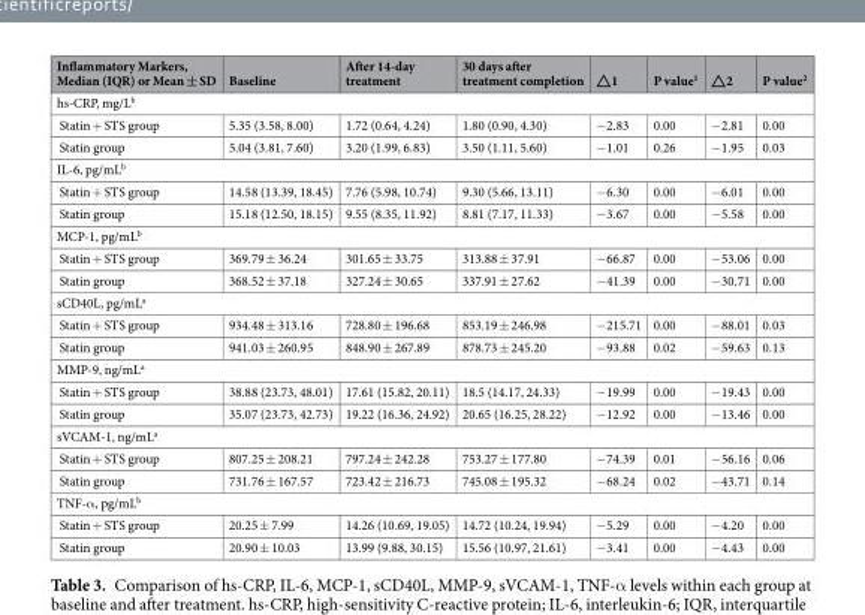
<table><thead><tr><td>Inflammatory Markers, Median (IQR) or Mean ± SD</td><td>Baseline</td><td>After 14-day treatment</td><td>30 days after treatment completion</td><td>△1</td><td>P value<sup>1</sup></td><td>△2</td><td>P value<sup>2</sup></td></tr></thead><tbody><tr><td colspan="8">hs-CRP, mg/L<sup>b</sup></td></tr><tr><td>Statin + STS group</td><td>5.35 (3.58, 8.00)</td><td>1.72 (0.64, 4.24)</td><td>1.80 (0.90, 4.30)</td><td>−2.83</td><td>0.00</td><td>−2.81</td><td>0.00</td></tr><tr><td>Statin group</td><td>5.04 (3.81, 7.60)</td><td>3.20 (1.99, 6.83)</td><td>3.50 (1.11, 5.60)</td><td>−1.01</td><td>0.26</td><td>−1.95</td><td>0.03</td></tr><tr><td colspan="8">IL-6, pg/mL<sup>b</sup></td></tr><tr><td>Statin + STS group</td><td>14.58 (13.39, 18.45)</td><td>7.76 (5.98, 10.74)</td><td>9.30 (5.66, 13.11)</td><td>−6.30</td><td>0.00</td><td>−6.01</td><td>0.00</td></tr><tr><td>Statin group</td><td>15.18 (12.50, 18.15)</td><td>9.55 (8.35, 11.92)</td><td>8.81 (7.17, 11.33)</td><td>−3.67</td><td>0.00</td><td>−5.58</td><td>0.00</td></tr><tr><td colspan="8">MCP-1, pg/mL<sup>b</sup></td></tr><tr><td>Statin + STS group</td><td>369.79 ± 36.24</td><td>301.65 ± 33.75</td><td>313.88 ± 37.91</td><td>−66.87</td><td>0.00</td><td>−53.06</td><td>0.00</td></tr><tr><td>Statin group</td><td>368.52 ± 37.18</td><td>327.24 ± 30.65</td><td>337.91 ± 27.62</td><td>−41.39</td><td>0.00</td><td>−30.71</td><td>0.00</td></tr><tr><td colspan="8">sCD40L, pg/mL<sup>a</sup></td></tr><tr><td>Statin + STS group</td><td>934.48 ± 313.16</td><td>728.80 ± 196.68</td><td>853.19 ± 246.98</td><td>−215.71</td><td>0.00</td><td>−88.01</td><td>0.03</td></tr><tr><td>Statin group</td><td>941.03 ± 260.95</td><td>848.90 ± 267.89</td><td>878.73 ± 245.20</td><td>−93.88</td><td>0.02</td><td>−59.63</td><td>0.13</td></tr><tr><td colspan="8">MMP-9, ng/mL<sup>a</sup></td></tr><tr><td>Statin + STS group</td><td>38.88 (23.73, 48.01)</td><td>17.61 (15.82, 20.11)</td><td>18.5 (14.17, 24.33)</td><td>−19.99</td><td>0.00</td><td>−19.43</td><td>0.00</td></tr><tr><td>Statin group</td><td>35.07 (23.73, 42.73)</td><td>19.22 (16.36, 24.92)</td><td>20.65 (16.25, 28.22)</td><td>−12.92</td><td>0.00</td><td>−13.46</td><td>0.00</td></tr><tr><td colspan="8">sVCAM-1, ng/mL<sup>a</sup></td></tr><tr><td>Statin + STS group</td><td>807.25 ± 208.21</td><td>797.24 ± 242.28</td><td>753.27 ± 177.80</td><td>−74.39</td><td>0.01</td><td>−56.16</td><td>0.06</td></tr><tr><td>Statin group</td><td>731.76 ± 167.57</td><td>723.42 ± 216.73</td><td>745.08 ± 195.32</td><td>−68.24</td><td>0.02</td><td>−43.71</td><td>0.14</td></tr><tr><td colspan="8">TNF-α, pg/mL<sup>b</sup></td></tr><tr><td>Statin + STS group</td><td>20.25 ± 7.99</td><td>14.26 (10.69, 19.05)</td><td>14.72 (10.24, 19.94)</td><td>−5.29</td><td>0.00</td><td>−4.20</td><td>0.00</td></tr><tr><td>Statin group</td><td>20.90 ± 10.03</td><td>13.99 (9.88, 30.15)</td><td>15.56 (10.97, 21.61)</td><td>−3.41</td><td>0.00</td><td>−4.43</td><td>0.00</td></tr></tbody></table>